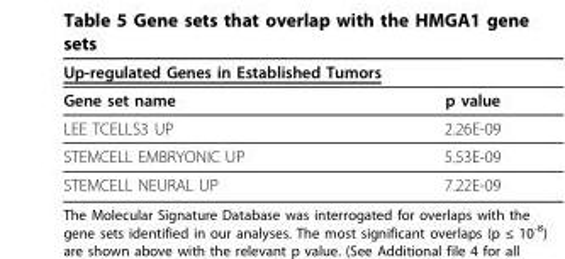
<table><thead><tr><td colspan="2">Up-regulated Genes in Established Tumors</td></tr><tr><td>Gene set name</td><td>p value</td></tr></thead><tbody><tr><td>LEE TCELLS3 UP</td><td>2.26E-09</td></tr><tr><td>STEMCELL EMBRYONIC UP</td><td>5.53E-09</td></tr><tr><td>STEMCELL NEURAL UP</td><td>7.22E-09</td></tr></tbody></table>